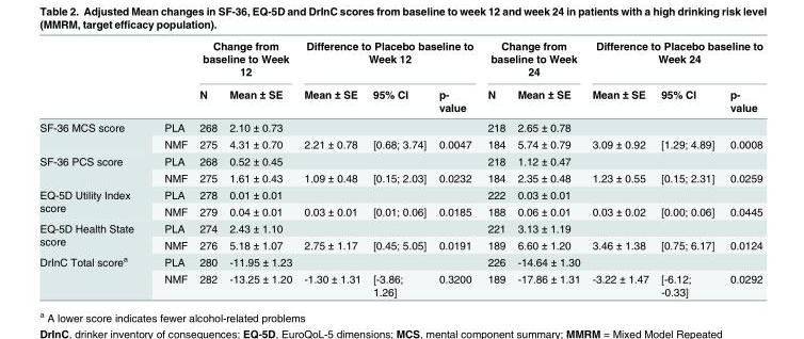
<table><thead><tr><td rowspan="2"></td><td rowspan="2"></td><td colspan="2">Change from baseline to Week 12</td><td colspan="3">Difference to Placebo baseline to Week 12</td><td colspan="2">Change from baseline to Week 24</td><td colspan="3">Difference to Placebo baseline to Week 24</td></tr><tr><td>N</td><td>Mean ± SE</td><td>Mean ± SE</td><td>95% CI</td><td>p- value</td><td>N</td><td>Mean ± SE</td><td>Mean ± SE</td><td>95% CI</td><td>p- value</td></tr></thead><tbody><tr><td rowspan="2">SF-36 MCS score</td><td>PLA</td><td>268</td><td>2.10 ± 0.73</td><td></td><td></td><td></td><td>218</td><td>2.65 ± 0.78</td><td></td><td></td><td></td></tr><tr><td>NMF</td><td>275</td><td>4.31 ± 0.70</td><td>2.21 ± 0.78</td><td>[0.68; 3.74]</td><td>0.0047</td><td>184</td><td>5.74 ± 0.79</td><td>3.09 ± 0.92</td><td>[1.29; 4.89]</td><td>0.0008</td></tr><tr><td rowspan="2">SF-36 PCS score</td><td>PLA</td><td>268</td><td>0.52 ± 0.45</td><td></td><td></td><td></td><td>218</td><td>1.12 ± 0.47</td><td></td><td></td><td></td></tr><tr><td>NMF</td><td>275</td><td>1.61 ± 0.43</td><td>1.09 ± 0.48</td><td>[0.15; 2.03]</td><td>0.0232</td><td>184</td><td>2.35 ± 0.48</td><td>1.23 ± 0.55</td><td>[0.15; 2.31]</td><td>0.0259</td></tr><tr><td rowspan="2">EQ-5D Utility Index score</td><td>PLA</td><td>278</td><td>0.01 ± 0.01</td><td></td><td></td><td></td><td>222</td><td>0.03 ± 0.01</td><td></td><td></td><td></td></tr><tr><td>NMF</td><td>279</td><td>0.04 ± 0.01</td><td>0.03 ± 0.01</td><td>[0.01; 0.06]</td><td>0.0185</td><td>188</td><td>0.06 ± 0.01</td><td>0.03 ± 0.02</td><td>[0.00; 0.06]</td><td>0.0445</td></tr><tr><td rowspan="2">EQ-5D Health State score</td><td>PLA</td><td>274</td><td>2.43 ± 1.10</td><td></td><td></td><td></td><td>221</td><td>3.13 ± 1.19</td><td></td><td></td><td></td></tr><tr><td>NMF</td><td>276</td><td>5.18 ± 1.07</td><td>2.75 ± 1.17</td><td>[0.45; 5.05]</td><td>0.0191</td><td>189</td><td>6.60 ± 1.20</td><td>3.46 ± 1.38</td><td>[0.75; 6.17]</td><td>0.0124</td></tr><tr><td rowspan="2">DrInC Total score<sup>a</sup></td><td>PLA</td><td>280</td><td>-11.95 ± 1.23</td><td></td><td></td><td></td><td>226</td><td>-14.64 ± 1.30</td><td></td><td></td><td></td></tr><tr><td>NMF</td><td>282</td><td>-13.25 ± 1.20</td><td>-1.30 ± 1.31</td><td>[-3.86; 1.26]</td><td>0.3200</td><td>189</td><td>-17.86 ± 1.31</td><td>-3.22 ± 1.47</td><td>[-6.12; -0.33]</td><td>0.0292</td></tr></tbody></table>